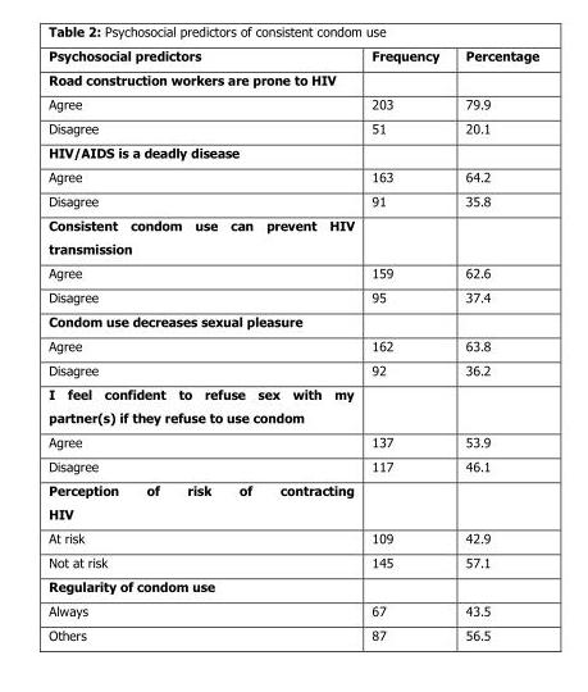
<table><thead><tr><td>Psychosocial predictors</td><td>Frequency</td><td>Percentage</td></tr></thead><tbody><tr><td colspan="3">Road construction workers are prone to HIV</td></tr><tr><td>Agree</td><td>203</td><td>79.9</td></tr><tr><td>Disagree</td><td>51</td><td>20.1</td></tr><tr><td colspan="3">HIV/AIDS is a deadly disease</td></tr><tr><td>Agree</td><td>163</td><td>64.2</td></tr><tr><td>Disagree</td><td>91</td><td>35.8</td></tr><tr><td colspan="3">Consistent condom use can prevent HIV transmission</td></tr><tr><td>Agree</td><td>159</td><td>62.6</td></tr><tr><td>Disagree</td><td>95</td><td>37.4</td></tr><tr><td colspan="3">Condom use decreases sexual pleasure</td></tr><tr><td>Agree</td><td>162</td><td>63.8</td></tr><tr><td>Disagree</td><td>92</td><td>36.2</td></tr><tr><td colspan="3">I feel confident to refuse sex with my partner(s) if they refuse to use condom</td></tr><tr><td>Agree</td><td>137</td><td>53.9</td></tr><tr><td>Disagree</td><td>117</td><td>46.1</td></tr><tr><td colspan="3">Perception of risk of contracting HIV</td></tr><tr><td>At risk</td><td>109</td><td>42.9</td></tr><tr><td>Not at risk</td><td>145</td><td>57.1</td></tr><tr><td colspan="3">Regularity of condom use</td></tr><tr><td>Always</td><td>67</td><td>43.5</td></tr><tr><td>Others</td><td>87</td><td>56.5</td></tr></tbody></table>